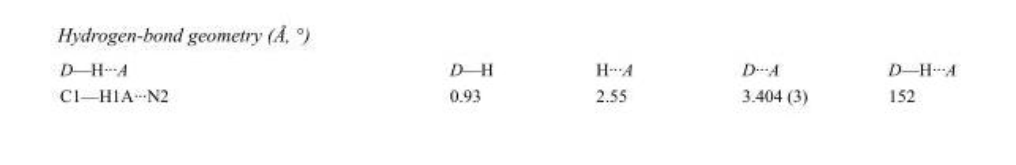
<table><tbody><tr><td>D—H···A</td><td>D—H</td><td>H···A</td><td>D···A</td><td>D—H···A</td></tr><tr><td>C1—H1A···N2</td><td>0.93</td><td>2.55</td><td>3.404 (3)</td><td>152</td></tr></tbody></table>